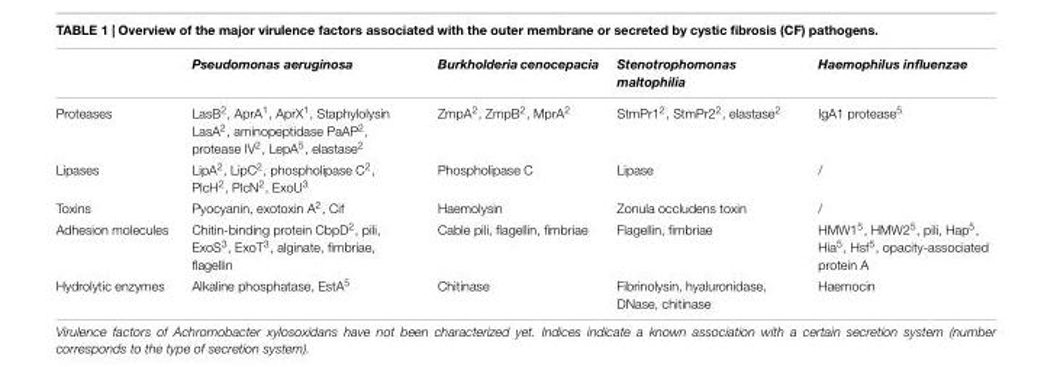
<table><thead><tr><td></td><td>Pseudomonas aeruginosa</td><td>Burkholderia cenocepacia</td><td>Stenotrophomonas maltophilia</td><td>Haemophilus influenzae</td></tr></thead><tbody><tr><td>Proteases</td><td>LasB<sup>2</sup>, AprA<sup>1</sup>, AprX<sup>1</sup>, Staphylolysin LasA<sup>2</sup>, aminopeptidase PaAP<sup>2</sup>, protease IV<sup>2</sup>, LepA<sup>5</sup>, elastase<sup>2</sup></td><td>ZmpA<sup>2</sup>, ZmpB<sup>2</sup>, MprA<sup>2</sup></td><td>StmPr1<sup>2</sup>, StmPr2<sup>2</sup>, elastase<sup>2</sup></td><td>IgA1 protease<sup>5</sup></td></tr><tr><td>Lipases</td><td>LipA<sup>2</sup>, LipC<sup>2</sup>, phospholipase C<sup>2</sup>, PlcH<sup>2</sup>, PlcN<sup>2</sup>, ExoU<sup>3</sup></td><td>Phospholipase C</td><td>Lipase</td><td>/</td></tr><tr><td>Toxins</td><td>Pyocyanin, exotoxin A<sup>2</sup>, Cif</td><td>Haemolysin</td><td>Zonula occludens toxin</td><td>/</td></tr><tr><td>Adhesion molecules</td><td>Chitin-binding protein CbpD<sup>2</sup>, pili, ExoS<sup>3</sup>, ExoT<sup>3</sup>, alginate, fimbriae, flagellin</td><td>Cable pili, flagellin, fimbriae</td><td>Flagellin, fimbriae</td><td>HMW1<sup>5</sup>, HMW2<sup>5</sup>, pili, Hap<sup>5</sup>, Hia<sup>5</sup>, Hsf<sup>5</sup>, opacity-associated protein A</td></tr><tr><td>Hydrolytic enzymes</td><td>Alkaline phosphatase, EstA<sup>5</sup></td><td>Chitinase</td><td>Fibrinolysin, hyaluronidase, DNase, chitinase</td><td>Haemocin</td></tr></tbody></table>